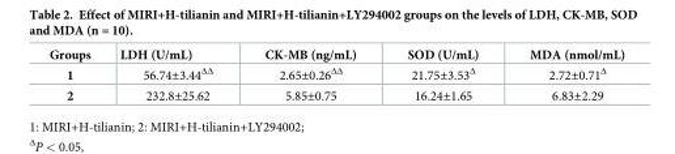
<table><thead><tr><td>Groups</td><td>LDH (U/mL)</td><td>CK-MB (ng/mL)</td><td>SOD (U/mL)</td><td>MDA (nmol/mL)</td></tr></thead><tbody><tr><td>1</td><td>56.74±3.44<sup>ΔΔ</sup></td><td>2.65±0.26<sup>ΔΔ</sup></td><td>21.75±3.53<sup>Δ</sup></td><td>2.72±0.71<sup>Δ</sup></td></tr><tr><td>2</td><td>232.8±25.62</td><td>5.85±0.75</td><td>16.24±1.65</td><td>6.83±2.29</td></tr></tbody></table>